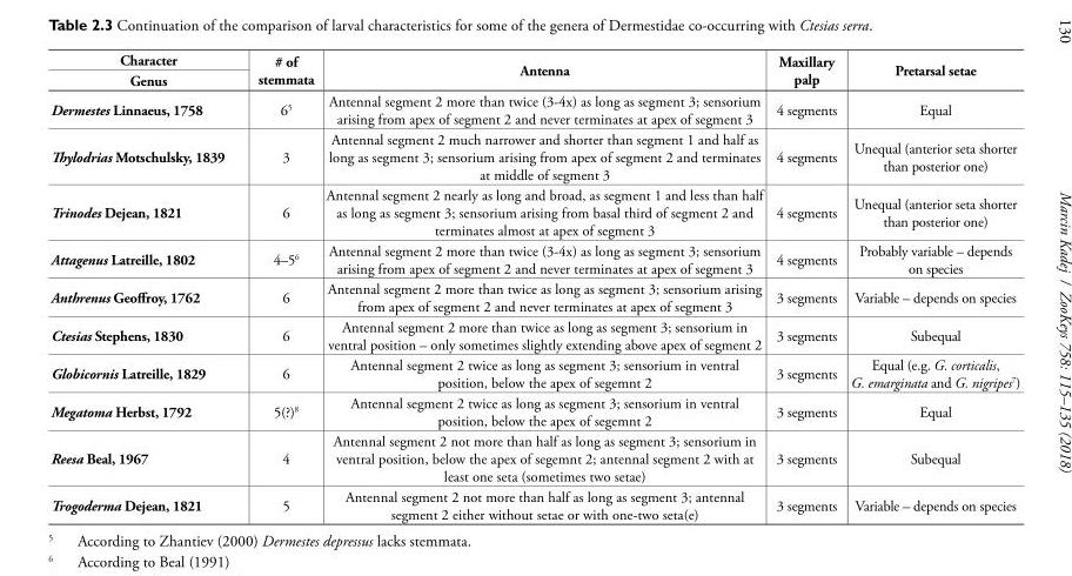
<table><thead><tr><td rowspan="2">Character Genus</td><td rowspan="2"># of stemmata</td><td rowspan="2">Antenna</td><td rowspan="2">Maxillary palp</td><td rowspan="2">Pretarsal setae</td></tr><tr></tr></thead><tbody><tr><td>Dermestes Linnaeus, 1758</td><td>6<sup>5</sup></td><td>Antennal segment 2 more than twice (3-4x) as long as segment 3; sensorium arising from apex of segment 2 and never terminates at apex of segment 3</td><td>4 segments</td><td>Equal</td></tr><tr><td>Thylodrias Motschulsky, 1839</td><td>3</td><td>Antennal segment 2 much narrower and shorter than segment 1 and half as long as segment 3; sensorium arising from apex of segment 2 and terminates at middle of segment 3</td><td>4 segments</td><td>Unequal (anterior seta shorter than posterior one)</td></tr><tr><td>Trinodes Dejean, 1821</td><td>6</td><td>Antennal segment 2 nearly as long and broad, as segment 1 and less than half as long as segment 3; sensorium arising from basal third of segment 2 and terminates almost at apex of segment 3</td><td>4 segments</td><td>Unequal (anterior seta shorter than posterior one)</td></tr><tr><td>Attagenus Latreille, 1802</td><td>4–5<sup>6</sup></td><td>Antennal segment 2 more than twice (3-4x) as long as segment 3; sensorium arising from apex of segment 2 and never terminates at apex of segment 3</td><td>4 segments</td><td>Probably variable – depends on species</td></tr><tr><td>Anthrenus Geoffroy, 1762</td><td>6</td><td>Antennal segment 2 more than twice as long as segment 3; sensorium arising from apex of segment 2 and never terminates at apex of segment 3</td><td>3 segments</td><td>Variable – depends on species</td></tr><tr><td>Ctesias Stephens, 1830</td><td>6</td><td>Antennal segment 2 more than twice as long as segment 3; sensorium in ventral position – only sometimes slightly extending above apex of segment 2</td><td>3 segments</td><td>Subequal</td></tr><tr><td>Globicornis Latreille, 1829</td><td>6</td><td>Antennal segment 2 twice as long as segment 3; sensorium in ventral position, below the apex of segemnt 2</td><td>3 segments</td><td>Equal (e.g. G. corticalis, G. emarginata and G. nigripes<sup>7</sup>)</td></tr><tr><td>Megatoma Herbst, 1792</td><td>5(?)<sup>8</sup></td><td>Antennal segment 2 twice as long as segment 3; sensorium in ventral position, below the apex of segemnt 2</td><td>3 segments</td><td>Equal</td></tr><tr><td>Reesa Beal, 1967</td><td>4</td><td>Antennal segment 2 not more than half as long as segment 3; sensorium in ventral position, below the apex of segemnt 2; antennal segment 2 with at least one seta (sometimes two setae)</td><td>3 segments</td><td>Subequal</td></tr><tr><td>Trogoderma Dejean, 1821</td><td>5</td><td>Antennal segment 2 not more than half as long as segment 3; antennal segment 2 either without setae or with one-two seta(e)</td><td>3 segments</td><td>Variable – depends on species</td></tr></tbody></table>